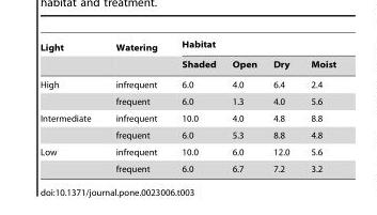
<table><thead><tr><td rowspan="2">Light</td><td rowspan="2">Watering</td><td colspan="4">Habitat</td></tr><tr><td>Shaded</td><td>Open</td><td>Dry</td><td>Moist</td></tr></thead><tbody><tr><td rowspan="2">High</td><td>infrequent</td><td>6.0</td><td>4.0</td><td>6.4</td><td>2.4</td></tr><tr><td>frequent</td><td>6.0</td><td>1.3</td><td>4.0</td><td>5.6</td></tr><tr><td rowspan="2">Intermediate</td><td>infrequent</td><td>10.0</td><td>4.0</td><td>4.8</td><td>8.8</td></tr><tr><td>frequent</td><td>6.0</td><td>5.3</td><td>8.8</td><td>4.8</td></tr><tr><td rowspan="2">Low</td><td>infrequent</td><td>10.0</td><td>6.0</td><td>12.0</td><td>5.6</td></tr><tr><td>frequent</td><td>6.0</td><td>6.7</td><td>7.2</td><td>3.2</td></tr></tbody></table>